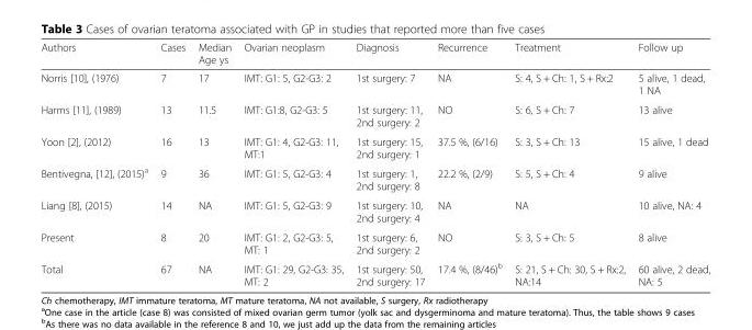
<table><thead><tr><td>Authors</td><td>Cases</td><td>Median Age ys</td><td>Ovarian neoplasm</td><td>Diagnosis</td><td>Recurrence</td><td>Treatment</td><td>Follow up</td></tr></thead><tbody><tr><td>Norris [10], (1976)</td><td>7</td><td>17</td><td>IMT: G1: 5, G2-G3: 2</td><td>1st surgery: 7</td><td>NA</td><td>S: 4, S + Ch: 1, S + Rx:2</td><td>5 alive, 1 dead, 1 NA</td></tr><tr><td>Harms [11], (1989)</td><td>13</td><td>11.5</td><td>IMT: G1:8, G2-G3: 5</td><td>1st surgery: 11, 2nd surgery: 2</td><td>NO</td><td>S: 6, S + Ch: 7</td><td>13 alive</td></tr><tr><td>Yoon [2], (2012)</td><td>16</td><td>13</td><td>IMT: G1: 4, G2-G3: 11, MT:1</td><td>1st surgery: 15, 2nd surgery: 1</td><td>37.5 %, (6/16)</td><td>S: 3, S + Ch: 13</td><td>15 alive, 1 dead</td></tr><tr><td>Bentivegna, [12], (2015)<sup>a</sup></td><td>9</td><td>36</td><td>IMT: G1: 5, G2-G3: 4</td><td>1st surgery: 1, 2nd surgery: 8</td><td>22.2 %, (2/9)</td><td>S: 5, S + Ch: 4</td><td>9 alive</td></tr><tr><td>Liang [8], (2015)</td><td>14</td><td>NA</td><td>IMT: G1: 5, G2-G3: 9</td><td>1st surgery: 10, 2nd surgery: 4</td><td>NA</td><td>NA</td><td>10 alive, NA: 4</td></tr><tr><td>Present</td><td>8</td><td>20</td><td>IMT: G1: 2, G2-G3: 5, MT: 1</td><td>1st surgery: 6, 2nd surgery: 2</td><td>NO</td><td>S: 3, S + Ch: 5</td><td>8 alive</td></tr><tr><td>Total</td><td>67</td><td>NA</td><td>IMT: G1: 29, G2-G3: 35, MT: 2</td><td>1st surgery: 50, 2nd surgery: 17</td><td>17.4 %, (8/46)<sup>b</sup></td><td>S: 21, S + Ch: 30, S + Rx:2, NA:14</td><td>60 alive, 2 dead, NA: 5</td></tr></tbody></table>